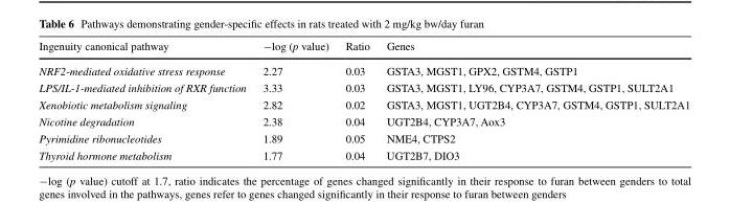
<table><thead><tr><td>Ingenuity canonical pathway</td><td>−log (p value)</td><td>Ratio</td><td>Genes</td></tr></thead><tbody><tr><td>NRF2-mediated oxidative stress response</td><td>2.27</td><td>0.03</td><td>GSTA3, MGST1, GPX2, GSTM4, GSTP1</td></tr><tr><td>LPS/IL-1-mediated inhibition of RXR function</td><td>3.33</td><td>0.03</td><td>GSTA3, MGST1, LY96, CYP3A7, GSTM4, GSTP1, SULT2A1</td></tr><tr><td>Xenobiotic metabolism signaling</td><td>2.82</td><td>0.02</td><td>GSTA3, MGST1, UGT2B4, CYP3A7, GSTM4, GSTP1, SULT2A1</td></tr><tr><td>Nicotine degradation</td><td>2.38</td><td>0.04</td><td>UGT2B4, CYP3A7, Aox3</td></tr><tr><td>Pyrimidine ribonucleotides</td><td>1.89</td><td>0.05</td><td>NME4, CTPS2</td></tr><tr><td>Thyroid hormone metabolism</td><td>1.77</td><td>0.04</td><td>UGT2B7, DIO3</td></tr></tbody></table>